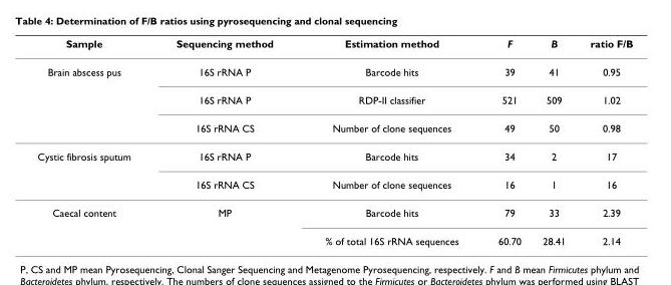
<table><thead><tr><td>Sample</td><td>Sequencing method</td><td>Estimation method</td><td>F</td><td>B</td><td>ratio F/B</td></tr></thead><tbody><tr><td rowspan="3">Brain abscess pus</td><td>16S rRNA P</td><td>Barcode hits</td><td>39</td><td>41</td><td>0.95</td></tr><tr><td>16S rRNA P</td><td>RDP-II classifier</td><td>521</td><td>509</td><td>1.02</td></tr><tr><td>16S rRNA CS</td><td>Number of clone sequences</td><td>49</td><td>50</td><td>0.98</td></tr><tr><td rowspan="2">Cystic fibrosis sputum</td><td>16S rRNA P</td><td>Barcode hits</td><td>34</td><td>2</td><td>17</td></tr><tr><td>16S rRNA CS</td><td>Number of clone sequences</td><td>16</td><td>1</td><td>16</td></tr><tr><td rowspan="2">Caecal content</td><td>MP</td><td>Barcode hits</td><td>79</td><td>33</td><td>2.39</td></tr><tr><td></td><td>% of total 16S rRNA sequences</td><td>60.70</td><td>28.41</td><td>2.14</td></tr></tbody></table>